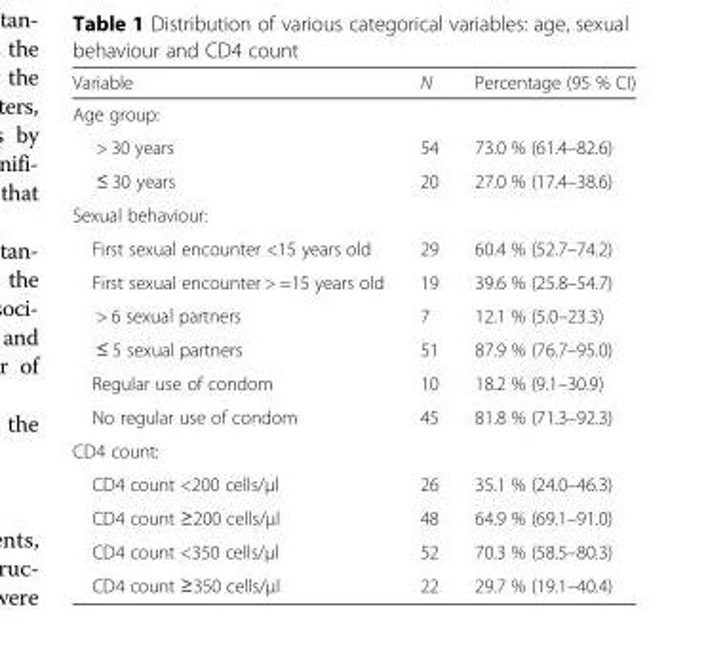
<table><thead><tr><td>Variable</td><td>N</td><td>Percentage (95 % CI)</td></tr></thead><tbody><tr><td colspan="3">Age group:</td></tr><tr><td>&gt; 30 years</td><td>54</td><td>73.0 % (61.4–82.6)</td></tr><tr><td>≤ 30 years</td><td>20</td><td>27.0 % (17.4–38.6)</td></tr><tr><td colspan="3">Sexual behaviour:</td></tr><tr><td>First sexual encounter &lt;15 years old</td><td>29</td><td>60.4 % (52.7–74.2)</td></tr><tr><td>First sexual encounter &gt; =15 years old</td><td>19</td><td>39.6 % (25.8–54.7)</td></tr><tr><td>&gt; 6 sexual partners</td><td>7</td><td>12.1 % (5.0–23.3)</td></tr><tr><td>≤ 5 sexual partners</td><td>51</td><td>87.9 % (76.7–95.0)</td></tr><tr><td>Regular use of condom</td><td>10</td><td>18.2 % (9.1–30.9)</td></tr><tr><td>No regular use of condom</td><td>45</td><td>81.8 % (71.3–92.3)</td></tr><tr><td colspan="3">CD4 count:</td></tr><tr><td>CD4 count &lt;200 cells/μl</td><td>26</td><td>35.1 % (24.0–46.3)</td></tr><tr><td>CD4 count ≥200 cells/μl</td><td>48</td><td>64.9 % (69.1–91.0)</td></tr><tr><td>CD4 count &lt;350 cells/μl</td><td>52</td><td>70.3 % (58.5–80.3)</td></tr><tr><td>CD4 count ≥350 cells/μl</td><td>22</td><td>29.7 % (19.1–40.4)</td></tr></tbody></table>